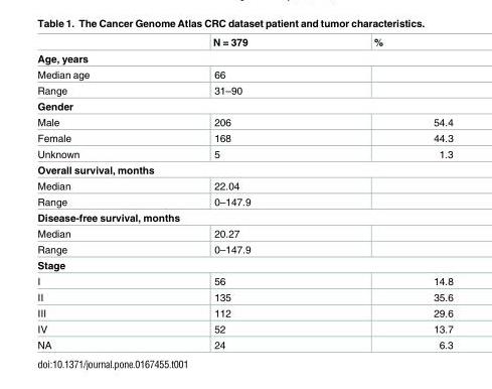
<table><thead><tr><td></td><td>N = 379</td><td>%</td></tr></thead><tbody><tr><td colspan="3">Age, years</td></tr><tr><td>Median age</td><td>66</td><td></td></tr><tr><td>Range</td><td>31–90</td><td></td></tr><tr><td colspan="3">Gender</td></tr><tr><td>Male</td><td>206</td><td>54.4</td></tr><tr><td>Female</td><td>168</td><td>44.3</td></tr><tr><td>Unknown</td><td>5</td><td>1.3</td></tr><tr><td colspan="3">Overall survival, months</td></tr><tr><td>Median</td><td>22.04</td><td></td></tr><tr><td>Range</td><td>0–147.9</td><td></td></tr><tr><td colspan="3">Disease-free survival, months</td></tr><tr><td>Median</td><td>20.27</td><td></td></tr><tr><td>Range</td><td>0–147.9</td><td></td></tr><tr><td colspan="3">Stage</td></tr><tr><td>I</td><td>56</td><td>14.8</td></tr><tr><td>II</td><td>135</td><td>35.6</td></tr><tr><td>III</td><td>112</td><td>29.6</td></tr><tr><td>IV</td><td>52</td><td>13.7</td></tr><tr><td>NA</td><td>24</td><td>6.3</td></tr></tbody></table>